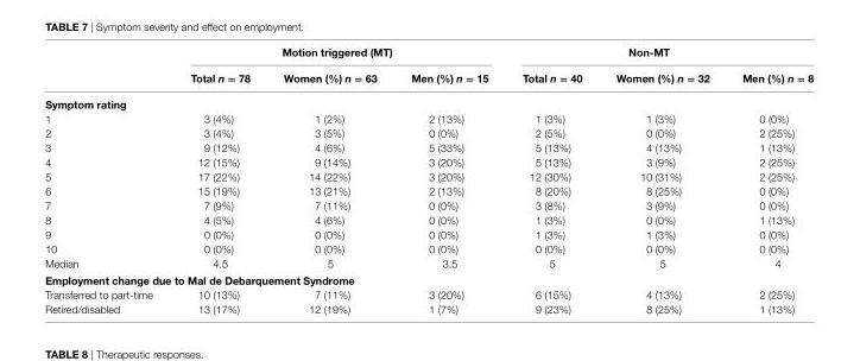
<table><thead><tr><td rowspan="2"></td><td colspan="3">Motion triggered (MT)</td><td colspan="3">non-MT</td></tr><tr><td>Total n = 78</td><td>Women (%) n = 63</td><td>Men (%) n = 15</td><td>Total n = 40</td><td>Women (%) n = 32</td><td>Men (%) n = 8</td></tr></thead><tbody><tr><td colspan="7">symptom rating</td></tr><tr><td>1</td><td>3 (4%)</td><td>1 (2%)</td><td>2 (13%)</td><td>1 (3%)</td><td>1 (3%)</td><td>0 (0%)</td></tr><tr><td>2</td><td>3 (4%)</td><td>3 (5%)</td><td>0 (0%)</td><td>2 (5%)</td><td>0 (0%)</td><td>2 (25%)</td></tr><tr><td>3</td><td>9 (12%)</td><td>4 (6%)</td><td>5 (33%)</td><td>5 (13%)</td><td>4 (13%)</td><td>1 (13%)</td></tr><tr><td>4</td><td>12 (15%)</td><td>9 (14%)</td><td>3 (20%)</td><td>5 (13%)</td><td>3 (9%)</td><td>2 (25%)</td></tr><tr><td>5</td><td>17 (22%)</td><td>14 (22%)</td><td>3 (20%)</td><td>12 (30%)</td><td>10 (31%)</td><td>2 (25%)</td></tr><tr><td>6</td><td>15 (19%)</td><td>13 (21%)</td><td>2 (13%)</td><td>8 (20%)</td><td>8 (25%)</td><td>0 (0%)</td></tr><tr><td>7</td><td>7 (9%)</td><td>7 (11%)</td><td>0 (0%)</td><td>3 (8%)</td><td>3 (9%)</td><td>0 (0%)</td></tr><tr><td>8</td><td>4 (5%)</td><td>4 (6%)</td><td>0 (0%)</td><td>1 (3%)</td><td>0 (0%)</td><td>1 (13%)</td></tr><tr><td>9</td><td>0 (0%)</td><td>0 (0%)</td><td>0 (0%)</td><td>1 (3%)</td><td>1 (3%)</td><td>0 (0%)</td></tr><tr><td>10</td><td>0 (0%)</td><td>0 (0%)</td><td>0 (0%)</td><td>0 (0%)</td><td>0 (0%)</td><td>0 (0%)</td></tr><tr><td>Median</td><td>4.5</td><td>5</td><td>3.5</td><td>5</td><td>5</td><td>4</td></tr><tr><td colspan="7">employment change due to Mal de Debarquement syndrome</td></tr><tr><td>Transferred to part-time</td><td>10 (13%)</td><td>7 (11%)</td><td>3 (20%)</td><td>6 (15%)</td><td>4 (13%)</td><td>2 (25%)</td></tr><tr><td>Retired/disabled</td><td>13 (17%)</td><td>12 (19%)</td><td>1 (7%)</td><td>9 (23%)</td><td>8 (25%)</td><td>1 (13%)</td></tr></tbody></table>